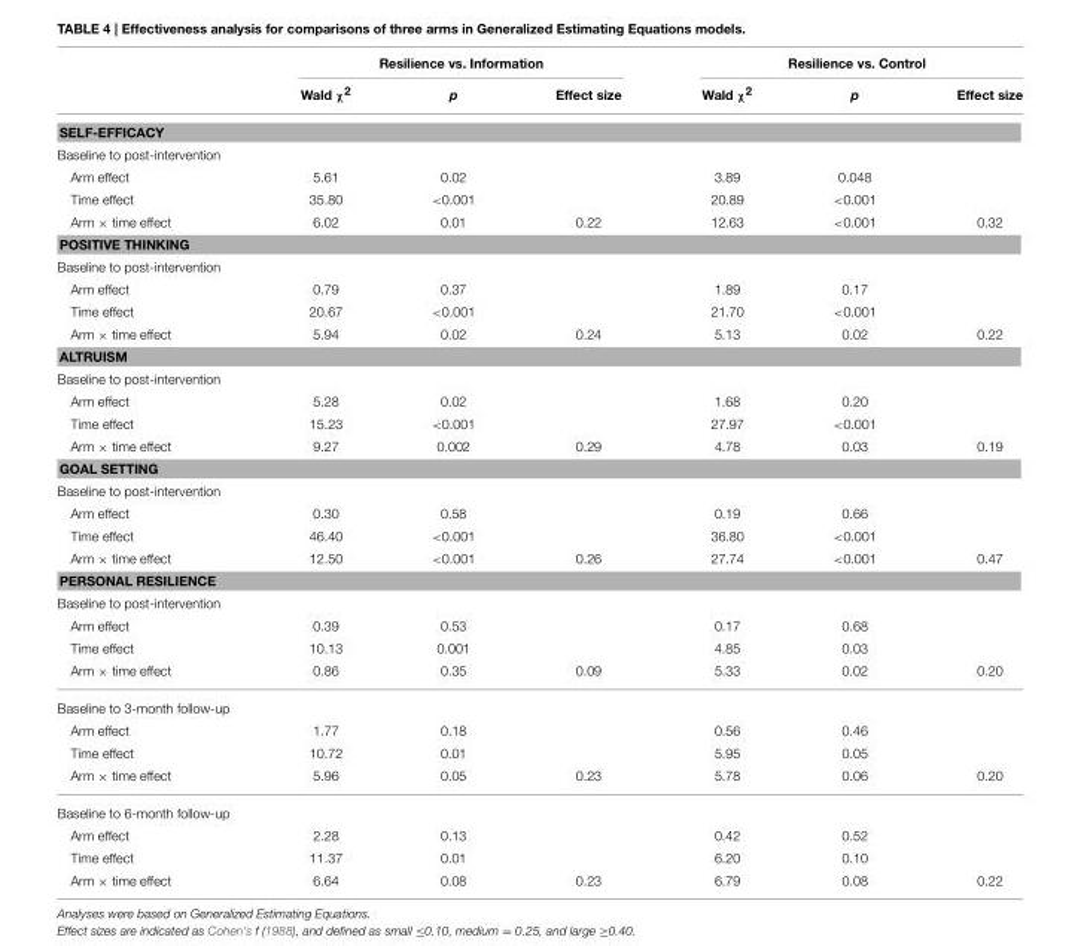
<table><thead><tr><td rowspan="2"></td><td colspan="3">Resilience vs. Information</td><td colspan="3">Resilience vs. Control</td></tr><tr><td>Wald χ<sup>2</sup></td><td>p</td><td>Effect size</td><td>Wald χ<sup>2</sup></td><td>p</td><td>Effect size</td></tr></thead><tbody><tr><td colspan="7">SELF-EFFICACY</td></tr><tr><td colspan="7">Baseline to post-intervention</td></tr><tr><td>Arm effect</td><td>5.61</td><td>0.02</td><td></td><td>3.89</td><td>0.048</td><td></td></tr><tr><td>Time effect</td><td>35.80</td><td>&lt;0.001</td><td></td><td>20.89</td><td>&lt;0.001</td><td></td></tr><tr><td>Arm × time effect</td><td>6.02</td><td>0.01</td><td>0.22</td><td>12.63</td><td>&lt;0.001</td><td>0.32</td></tr><tr><td colspan="7">POSITIVE THINKING</td></tr><tr><td colspan="7">Baseline to post-intervention</td></tr><tr><td>Arm effect</td><td>0.79</td><td>0.37</td><td></td><td>1.89</td><td>0.17</td><td></td></tr><tr><td>Time effect</td><td>20.67</td><td>&lt;0.001</td><td></td><td>21.70</td><td>&lt;0.001</td><td></td></tr><tr><td>Arm × time effect</td><td>5.94</td><td>0.02</td><td>0.24</td><td>5.13</td><td>0.02</td><td>0.22</td></tr><tr><td colspan="7">ALTRUISM</td></tr><tr><td colspan="7">Baseline to post-intervention</td></tr><tr><td>Arm effect</td><td>5.28</td><td>0.02</td><td></td><td>1.68</td><td>0.20</td><td></td></tr><tr><td>Time effect</td><td>15.23</td><td>&lt;0.001</td><td></td><td>27.97</td><td>&lt;0.001</td><td></td></tr><tr><td>Arm × time effect</td><td>9.27</td><td>0.002</td><td>0.29</td><td>4.78</td><td>0.03</td><td>0.19</td></tr><tr><td colspan="7">GOAL SETTING</td></tr><tr><td colspan="7">Baseline to post-intervention</td></tr><tr><td>Arm effect</td><td>0.30</td><td>0.58</td><td></td><td>0.19</td><td>0.66</td><td></td></tr><tr><td>Time effect</td><td>46.40</td><td>&lt;0.001</td><td></td><td>36.80</td><td>&lt;0.001</td><td></td></tr><tr><td>Arm × time effect</td><td>12.50</td><td>&lt;0.001</td><td>0.26</td><td>27.74</td><td>&lt;0.001</td><td>0.47</td></tr><tr><td colspan="7">PERSONAL RESILIENCE</td></tr><tr><td colspan="7">Baseline to post-intervention</td></tr><tr><td>Arm effect</td><td>0.39</td><td>0.53</td><td></td><td>0.17</td><td>0.68</td><td></td></tr><tr><td>Time effect</td><td>10.13</td><td>0.001</td><td></td><td>4.85</td><td>0.03</td><td></td></tr><tr><td>Arm × time effect</td><td>0.86</td><td>0.35</td><td>0.09</td><td>5.33</td><td>0.02</td><td>0.20</td></tr><tr><td colspan="7">Baseline to 3-month follow-up</td></tr><tr><td>Arm effect</td><td>1.77</td><td>0.18</td><td></td><td>0.56</td><td>0.46</td><td></td></tr><tr><td>Time effect</td><td>10.72</td><td>0.01</td><td></td><td>5.95</td><td>0.05</td><td></td></tr><tr><td>Arm × time effect</td><td>5.96</td><td>0.05</td><td>0.23</td><td>5.78</td><td>0.06</td><td>0.20</td></tr><tr><td colspan="7">Baseline to 6-month follow-up</td></tr><tr><td>Arm effect</td><td>2.28</td><td>0.13</td><td></td><td>0.42</td><td>0.52</td><td></td></tr><tr><td>Time effect</td><td>11.37</td><td>0.01</td><td></td><td>6.20</td><td>0.10</td><td></td></tr><tr><td>Arm × time effect</td><td>6.64</td><td>0.08</td><td>0.23</td><td>6.79</td><td>0.08</td><td>0.22</td></tr></tbody></table>